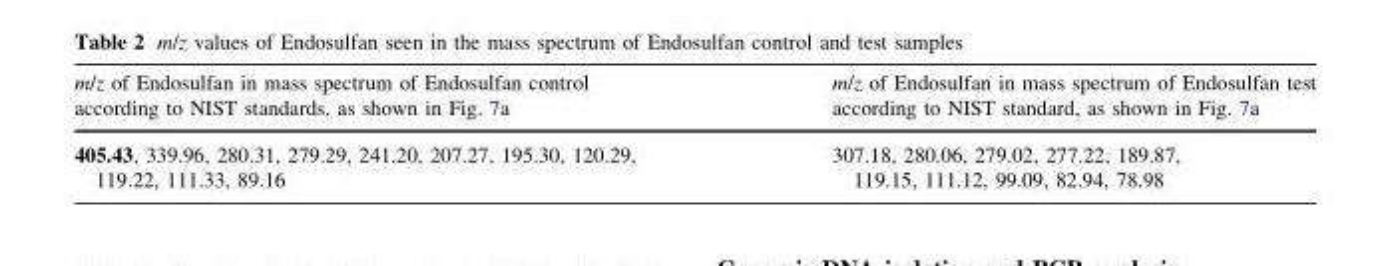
<table><thead><tr><td>m/z of Endosulfan in mass spectrum of Endosulfan control according to NIST standards, as shown in Fig. 7a</td><td>m/z of Endosulfan in mass spectrum of Endosulfan test according to NIST standard, as shown in Fig. 7a</td></tr></thead><tbody><tr><td>405.43, 339.96, 280.31, 279.29, 241.20, 207.27, 195.30, 120.29, 119.22, 111.33, 89.16</td><td>307.18, 280.06, 279.02, 277.22, 189.87, 119.15, 111.12, 99.09, 82.94, 78.98</td></tr></tbody></table>